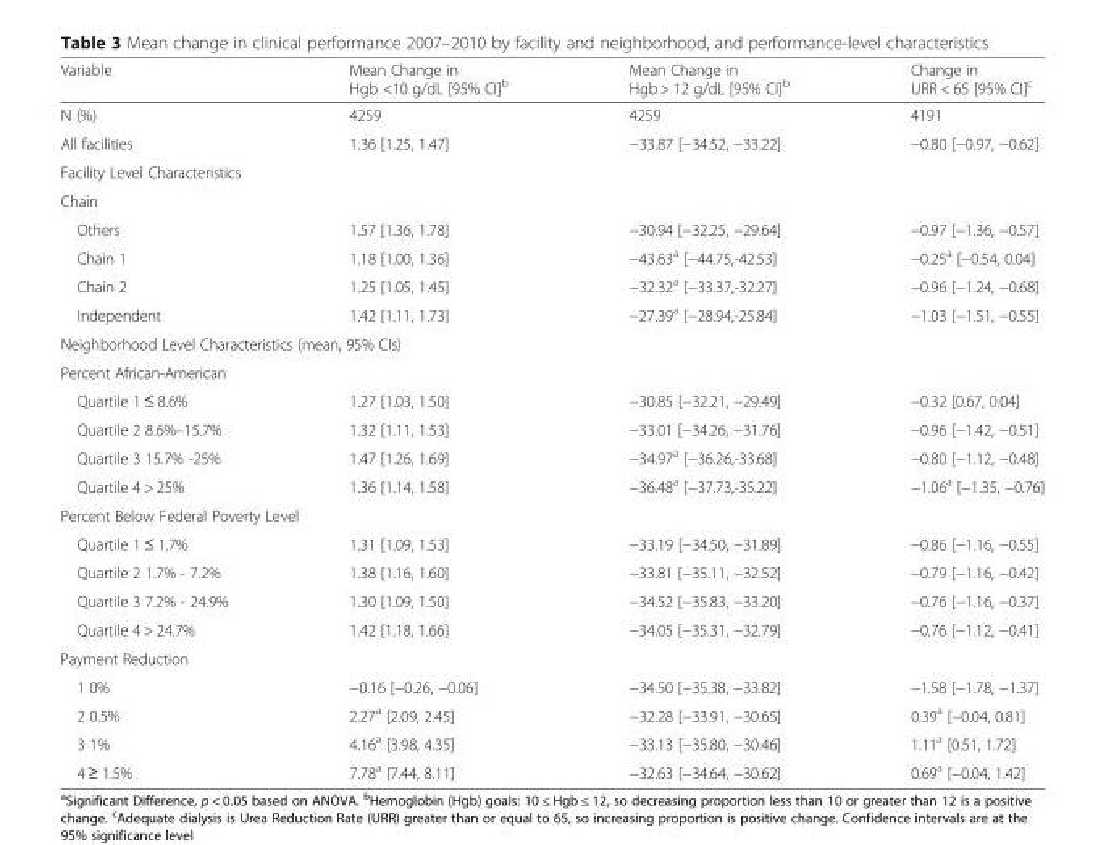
<table><thead><tr><td>Variable</td><td>Mean Change in Hgb &lt;10 g/dL [95% CI]<sup>b</sup></td><td>Mean Change in Hgb &gt; 12 g/dL [95% CI]<sup>b</sup></td><td>Change in URR &lt; 65 [95% CI]<sup>c</sup></td></tr></thead><tbody><tr><td>N (%)</td><td>4259</td><td>4259</td><td>4191</td></tr><tr><td>All facilities</td><td>1.36 [1.25, 1.47]</td><td>−33.87 [−34.52, −33.22]</td><td>−0.80 [−0.97, −0.62]</td></tr><tr><td colspan="4">Facility Level Characteristics</td></tr><tr><td colspan="4">Chain</td></tr><tr><td>Others</td><td>1.57 [1.36, 1.78]</td><td>−30.94 [−32.25, −29.64]</td><td>−0.97 [−1.36, −0.57]</td></tr><tr><td>Chain 1</td><td>1.18 [1.00, 1.36]</td><td>−43.63<sup>a</sup> [−44.75,-42.53]</td><td>−0.25<sup>a</sup> [−0.54, 0.04]</td></tr><tr><td>Chain 2</td><td>1.25 [1.05, 1.45]</td><td>−32.32<sup>a</sup> [−33.37,-32.27]</td><td>−0.96 [−1.24, −0.68]</td></tr><tr><td>Independent</td><td>1.42 [1.11, 1.73]</td><td>−27.39<sup>a</sup> [−28.94,-25.84]</td><td>−1.03 [−1.51, −0.55]</td></tr><tr><td colspan="4">Neighborhood Level Characteristics (mean, 95% CIs)</td></tr><tr><td colspan="4">Percent African-American</td></tr><tr><td>Quartile 1 ≤ 8.6%</td><td>1.27 [1.03, 1.50]</td><td>−30.85 [−32.21, −29.49]</td><td>−0.32 [0.67, 0.04]</td></tr><tr><td>Quartile 2 8.6%–15.7%</td><td>1.32 [1.11, 1.53]</td><td>−33.01 [−34.26, −31.76]</td><td>−0.96 [−1.42, −0.51]</td></tr><tr><td>Quartile 3 15.7% -25%</td><td>1.47 [1.26, 1.69]</td><td>−34.97<sup>a</sup> [−36.26,-33.68]</td><td>−0.80 [−1.12, −0.48]</td></tr><tr><td>Quartile 4 &gt; 25%</td><td>1.36 [1.14, 1.58]</td><td>−36.48<sup>a</sup> [−37.73,-35.22]</td><td>−1.06<sup>a</sup> [−1.35, −0.76]</td></tr><tr><td colspan="4">Percent Below Federal Poverty Level</td></tr><tr><td>Quartile 1 ≤ 1.7%</td><td>1.31 [1.09, 1.53]</td><td>−33.19 [−34.50, −31.89]</td><td>−0.86 [−1.16, −0.55]</td></tr><tr><td>Quartile 2 1.7% - 7.2%</td><td>1.38 [1.16, 1.60]</td><td>−33.81 [−35.11, −32.52]</td><td>−0.79 [−1.16, −0.42]</td></tr><tr><td>Quartile 3 7.2% - 24.9%</td><td>1.30 [1.09, 1.50]</td><td>−34.52 [−35.83, −33.20]</td><td>−0.76 [−1.16, −0.37]</td></tr><tr><td>Quartile 4 &gt; 24.7%</td><td>1.42 [1.18, 1.66]</td><td>−34.05 [−35.31, −32.79]</td><td>−0.76 [−1.12, −0.41]</td></tr><tr><td colspan="4">Payment Reduction</td></tr><tr><td>1 0%</td><td>−0.16 [−0.26, −0.06]</td><td>−34.50 [−35.38, −33.82]</td><td>−1.58 [−1.78, −1.37]</td></tr><tr><td>2 0.5%</td><td>2.27<sup>a</sup> [2.09, 2.45]</td><td>−32.28 [−33.91, −30.65]</td><td>0.39<sup>a</sup> [−0.04, 0.81]</td></tr><tr><td>3 1%</td><td>4.16<sup>a</sup> [3.98, 4.35]</td><td>−33.13 [−35.80, −30.46]</td><td>1.11<sup>a</sup> [0.51, 1.72]</td></tr><tr><td>4 ≥ 1.5%</td><td>7.78<sup>a</sup> [7.44, 8.11]</td><td>−32.63 [−34.64, −30.62]</td><td>0.69<sup>a</sup> [−0.04, 1.42]</td></tr></tbody></table>